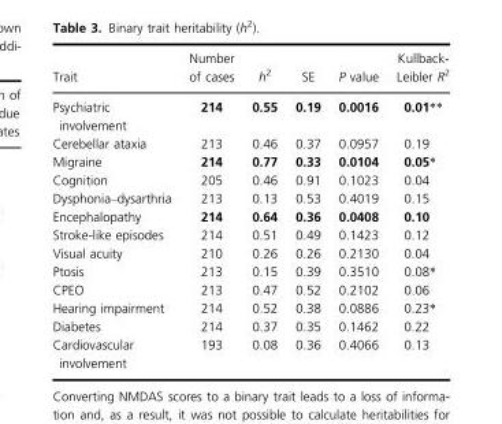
<table><thead><tr><td>Trait</td><td>Number of cases</td><td>h<sup>2</sup></td><td>SE</td><td>P value</td><td>Kullback- Leibler R<sup>2</sup></td></tr></thead><tbody><tr><td>Psychiatric involvement</td><td>214</td><td>0.55</td><td>0.19</td><td>0.0016</td><td>0.01**</td></tr><tr><td>Cerebellar ataxia</td><td>213</td><td>0.46</td><td>0.37</td><td>0.0957</td><td>0.19</td></tr><tr><td>Migraine</td><td>214</td><td>0.77</td><td>0.33</td><td>0.0104</td><td>0.05*</td></tr><tr><td>Cognition</td><td>205</td><td>0.46</td><td>0.91</td><td>0.1023</td><td>0.04</td></tr><tr><td>Dysphonia–dysarthria</td><td>213</td><td>0.13</td><td>0.53</td><td>0.4019</td><td>0.15</td></tr><tr><td>Encephalopathy</td><td>214</td><td>0.64</td><td>0.36</td><td>0.0408</td><td>0.10</td></tr><tr><td>Stroke-like episodes</td><td>214</td><td>0.51</td><td>0.49</td><td>0.1423</td><td>0.12</td></tr><tr><td>Visual acuity</td><td>210</td><td>0.26</td><td>0.26</td><td>0.2130</td><td>0.04</td></tr><tr><td>Ptosis</td><td>213</td><td>0.15</td><td>0.39</td><td>0.3510</td><td>0.08*</td></tr><tr><td>CPEO</td><td>213</td><td>0.47</td><td>0.52</td><td>0.2102</td><td>0.06</td></tr><tr><td>Hearing impairment</td><td>214</td><td>0.52</td><td>0.38</td><td>0.0886</td><td>0.23*</td></tr><tr><td>Diabetes</td><td>214</td><td>0.37</td><td>0.35</td><td>0.1462</td><td>0.22</td></tr><tr><td>Cardiovascular involvement</td><td>193</td><td>0.08</td><td>0.36</td><td>0.4066</td><td>0.13</td></tr></tbody></table>